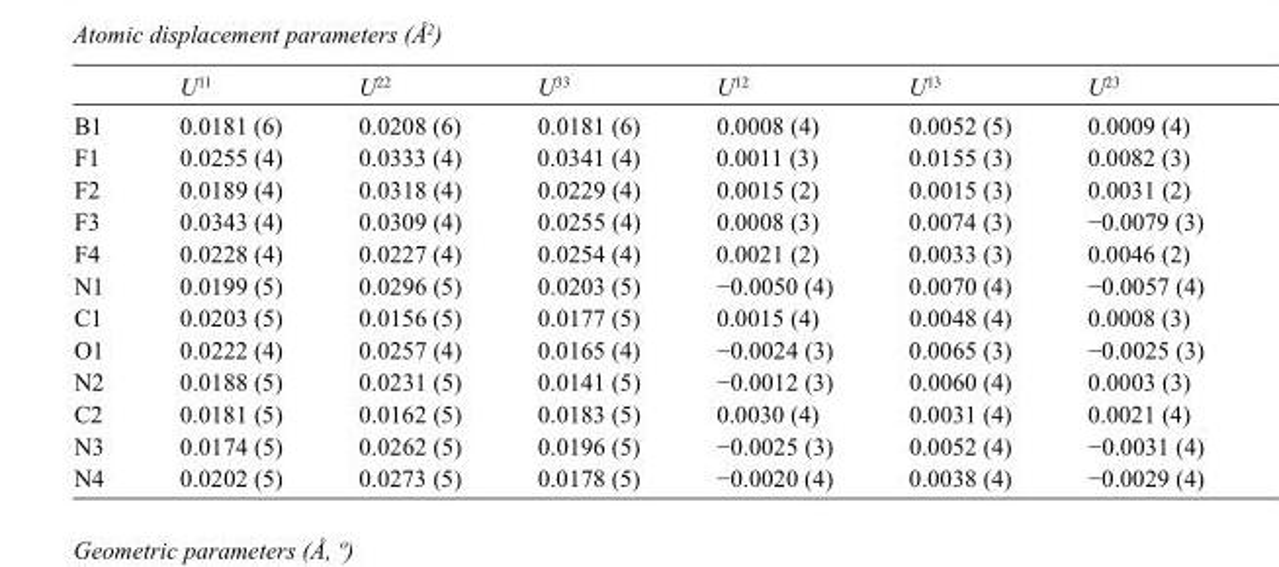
<table><thead><tr><td></td><td>U<sup>11</sup></td><td>U<sup>22</sup></td><td>U<sup>33</sup></td><td>U<sup>12</sup></td><td>U<sup>13</sup></td><td>U<sup>23</sup></td></tr></thead><tbody><tr><td>B1</td><td>0.0181 (6)</td><td>0.0208 (6)</td><td>0.0181 (6)</td><td>0.0008 (4)</td><td>0.0052 (5)</td><td>0.0009 (4)</td></tr><tr><td>F1</td><td>0.0255 (4)</td><td>0.0333 (4)</td><td>0.0341 (4)</td><td>0.0011 (3)</td><td>0.0155 (3)</td><td>0.0082 (3)</td></tr><tr><td>F2</td><td>0.0189 (4)</td><td>0.0318 (4)</td><td>0.0229 (4)</td><td>0.0015 (2)</td><td>0.0015 (3)</td><td>0.0031 (2)</td></tr><tr><td>F3</td><td>0.0343 (4)</td><td>0.0309 (4)</td><td>0.0255 (4)</td><td>0.0008 (3)</td><td>0.0074 (3)</td><td>−0.0079 (3)</td></tr><tr><td>F4</td><td>0.0228 (4)</td><td>0.0227 (4)</td><td>0.0254 (4)</td><td>0.0021 (2)</td><td>0.0033 (3)</td><td>0.0046 (2)</td></tr><tr><td>N1</td><td>0.0199 (5)</td><td>0.0296 (5)</td><td>0.0203 (5)</td><td>−0.0050 (4)</td><td>0.0070 (4)</td><td>−0.0057 (4)</td></tr><tr><td>C1</td><td>0.0203 (5)</td><td>0.0156 (5)</td><td>0.0177 (5)</td><td>0.0015 (4)</td><td>0.0048 (4)</td><td>0.0008 (3)</td></tr><tr><td>O1</td><td>0.0222 (4)</td><td>0.0257 (4)</td><td>0.0165 (4)</td><td>−0.0024 (3)</td><td>0.0065 (3)</td><td>−0.0025 (3)</td></tr><tr><td>N2</td><td>0.0188 (5)</td><td>0.0231 (5)</td><td>0.0141 (5)</td><td>−0.0012 (3)</td><td>0.0060 (4)</td><td>0.0003 (3)</td></tr><tr><td>C2</td><td>0.0181 (5)</td><td>0.0162 (5)</td><td>0.0183 (5)</td><td>0.0030 (4)</td><td>0.0031 (4)</td><td>0.0021 (4)</td></tr><tr><td>N3</td><td>0.0174 (5)</td><td>0.0262 (5)</td><td>0.0196 (5)</td><td>−0.0025 (3)</td><td>0.0052 (4)</td><td>−0.0031 (4)</td></tr><tr><td>N4</td><td>0.0202 (5)</td><td>0.0273 (5)</td><td>0.0178 (5)</td><td>−0.0020 (4)</td><td>0.0038 (4)</td><td>−0.0029 (4)</td></tr></tbody></table>